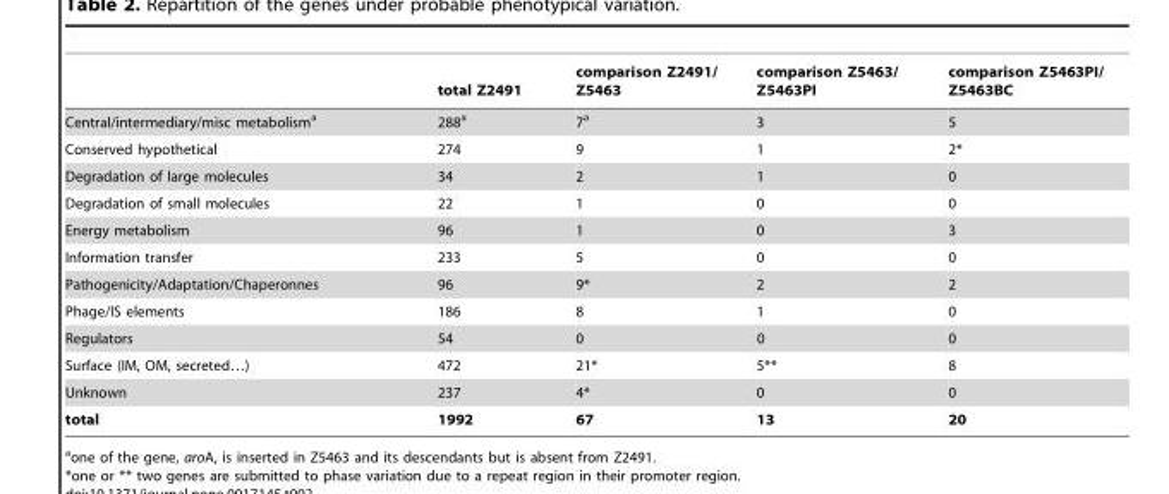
<table><thead><tr><td></td><td>total Z2491</td><td>comparison Z2491/ Z5463</td><td>comparison Z5463/ Z5463PI</td><td>comparison Z5463PI/ Z5463BC</td></tr></thead><tbody><tr><td>Central/intermediary/misc metabolism<sup>a</sup></td><td>288<sup>a</sup></td><td>7<sup>a</sup></td><td>3</td><td>5</td></tr><tr><td>Conserved hypothetical</td><td>274</td><td>9</td><td>1</td><td>2*</td></tr><tr><td>Degradation of large molecules</td><td>34</td><td>2</td><td>1</td><td>0</td></tr><tr><td>Degradation of small molecules</td><td>22</td><td>1</td><td>0</td><td>0</td></tr><tr><td>Energy metabolism</td><td>96</td><td>1</td><td>0</td><td>3</td></tr><tr><td>Information transfer</td><td>233</td><td>5</td><td>0</td><td>0</td></tr><tr><td>Pathogenicity/Adaptation/Chaperonnes</td><td>96</td><td>9*</td><td>2</td><td>2</td></tr><tr><td>Phage/IS elements</td><td>186</td><td>8</td><td>1</td><td>0</td></tr><tr><td>Regulators</td><td>54</td><td>0</td><td>0</td><td>0</td></tr><tr><td>Surface (IM, OM, secreted…)</td><td>472</td><td>21*</td><td>5**</td><td>8</td></tr><tr><td>Unknown</td><td>237</td><td>4*</td><td>0</td><td>0</td></tr><tr><td>total</td><td>1992</td><td>67</td><td>13</td><td>20</td></tr></tbody></table>